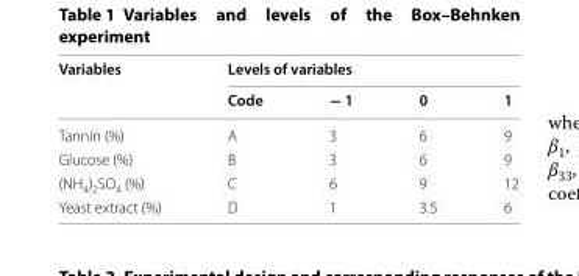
<table><thead><tr><td rowspan="2">Variables</td><td colspan="4">Levels of variables</td></tr><tr><td>Code</td><td>− 1</td><td>0</td><td>1</td></tr></thead><tbody><tr><td>Tannin (%)</td><td>A</td><td>3</td><td>6</td><td>9</td></tr><tr><td>Glucose (%)</td><td>B</td><td>3</td><td>6</td><td>9</td></tr><tr><td>(NH<sub>4</sub>)<sub>2</sub>SO<sub>4</sub> (%)</td><td>C</td><td>6</td><td>9</td><td>12</td></tr><tr><td>Yeast extract (%)</td><td>D</td><td>1</td><td>3.5</td><td>6</td></tr></tbody></table>